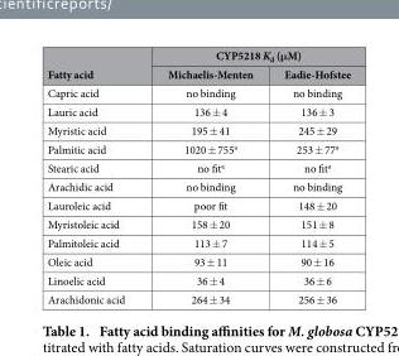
<table><thead><tr><td rowspan="2">Fatty acid</td><td colspan="2">CYP5218 K<sub>d</sub> (μM)</td></tr><tr><td>Michaelis-Menten</td><td>Eadie-Hofstee</td></tr></thead><tbody><tr><td>Capric acid</td><td>no binding</td><td>no binding</td></tr><tr><td>Lauric acid</td><td>136 ± 4</td><td>136 ± 3</td></tr><tr><td>Myristic acid</td><td>195 ± 41</td><td>245 ± 29</td></tr><tr><td>Palmitic acid</td><td>1020 ± 755<sup>a</sup></td><td>253 ± 77<sup>a</sup></td></tr><tr><td>Stearic acid</td><td>no fit<sup>a</sup></td><td>no fit<sup>a</sup></td></tr><tr><td>Arachidic acid</td><td>no binding</td><td>no binding</td></tr><tr><td>Lauroleic acid</td><td>poor fit</td><td>148 ± 20</td></tr><tr><td>Myristoleic acid</td><td>158 ± 20</td><td>151 ± 8</td></tr><tr><td>Palmitoleic acid</td><td>113 ± 7</td><td>114 ± 5</td></tr><tr><td>Oleic acid</td><td>93 ± 11</td><td>90 ± 16</td></tr><tr><td>Linoelic acid</td><td>36 ± 4</td><td>36 ± 6</td></tr><tr><td>Arachidonic acid</td><td>264 ± 34</td><td>256 ± 36</td></tr></tbody></table>